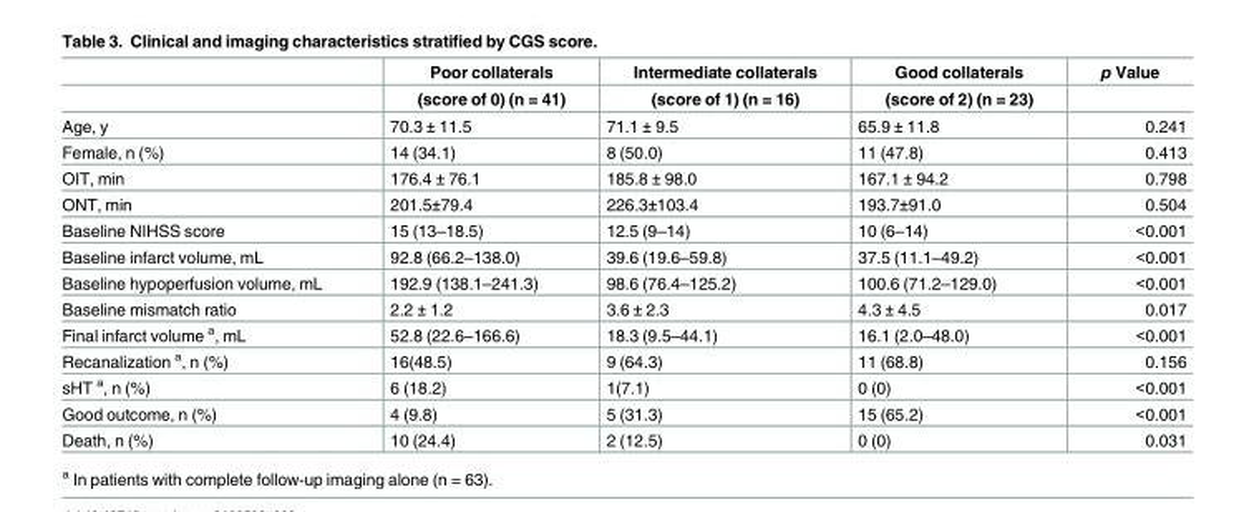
<table><thead><tr><td rowspan="2"></td><td rowspan="2">Poor collaterals (score of 0) (n = 41)</td><td rowspan="2">Intermediate collaterals (score of 1) (n = 16)</td><td rowspan="2">Good collaterals (score of 2) (n = 23)</td><td rowspan="2">p Value</td></tr><tr></tr></thead><tbody><tr><td>Age, y</td><td>70.3 ± 11.5</td><td>71.1 ± 9.5</td><td>65.9 ± 11.8</td><td>0.241</td></tr><tr><td>Female, n (%)</td><td>14 (34.1)</td><td>8 (50.0)</td><td>11 (47.8)</td><td>0.413</td></tr><tr><td>OIT, min</td><td>176.4 ± 76.1</td><td>185.8 ± 98.0</td><td>167.1 ± 94.2</td><td>0.798</td></tr><tr><td>ONT, min</td><td>201.5±79.4</td><td>226.3±103.4</td><td>193.7±91.0</td><td>0.504</td></tr><tr><td>Baseline NIHSS score</td><td>15 (13–18.5)</td><td>12.5 (9–14)</td><td>10 (6–14)</td><td>&lt;0.001</td></tr><tr><td>Baseline infarct volume, mL</td><td>92.8 (66.2–138.0)</td><td>39.6 (19.6–59.8)</td><td>37.5 (11.1–49.2)</td><td>&lt;0.001</td></tr><tr><td>Baseline hypoperfusion volume, mL</td><td>192.9 (138.1–241.3)</td><td>98.6 (76.4–125.2)</td><td>100.6 (71.2–129.0)</td><td>&lt;0.001</td></tr><tr><td>Baseline mismatch ratio</td><td>2.2 ± 1.2</td><td>3.6 ± 2.3</td><td>4.3 ± 4.5</td><td>0.017</td></tr><tr><td>Final infarct volume <sup>a</sup>, mL</td><td>52.8 (22.6–166.6)</td><td>18.3 (9.5–44.1)</td><td>16.1 (2.0–48.0)</td><td>&lt;0.001</td></tr><tr><td>Recanalization <sup>a</sup>, n (%)</td><td>16(48.5)</td><td>9 (64.3)</td><td>11 (68.8)</td><td>0.156</td></tr><tr><td>sHT <sup>a</sup>, n (%)</td><td>6 (18.2)</td><td>1(7.1)</td><td>0 (0)</td><td>&lt;0.001</td></tr><tr><td>Good outcome, n (%)</td><td>4 (9.8)</td><td>5 (31.3)</td><td>15 (65.2)</td><td>&lt;0.001</td></tr><tr><td>Death, n (%)</td><td>10 (24.4)</td><td>2 (12.5)</td><td>0 (0)</td><td>0.031</td></tr></tbody></table>